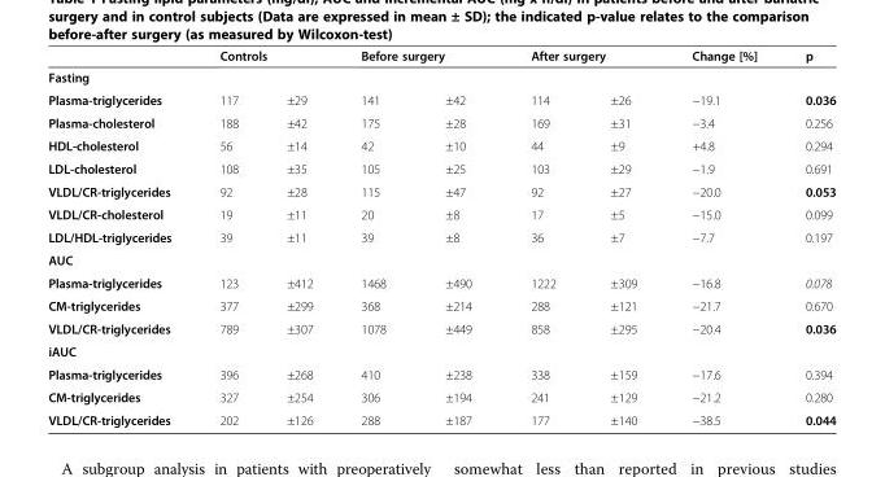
<table><thead><tr><td rowspan="2">Fasting</td><td colspan="2">Controls</td><td colspan="2">Before surgery</td><td colspan="2">After surgery</td><td rowspan="2">Change [%]</td><td rowspan="2">p</td></tr><tr><td></td><td></td><td></td><td></td><td></td><td></td></tr></thead><tbody><tr><td>Plasma-triglycerides</td><td>117</td><td>±29</td><td>141</td><td>±42</td><td>114</td><td>±26</td><td>−19.1</td><td>0.036</td></tr><tr><td>Plasma-cholesterol</td><td>188</td><td>±42</td><td>175</td><td>±28</td><td>169</td><td>±31</td><td>−3.4</td><td>0.256</td></tr><tr><td>HDL-cholesterol</td><td>56</td><td>±14</td><td>42</td><td>±10</td><td>44</td><td>±9</td><td>+4.8</td><td>0.294</td></tr><tr><td>LDL-cholesterol</td><td>108</td><td>±35</td><td>105</td><td>±25</td><td>103</td><td>±29</td><td>−1.9</td><td>0.691</td></tr><tr><td>VLDL/CR-triglycerides</td><td>92</td><td>±28</td><td>115</td><td>±47</td><td>92</td><td>±27</td><td>−20.0</td><td>0.053</td></tr><tr><td>VLDL/CR-cholesterol</td><td>19</td><td>±11</td><td>20</td><td>±8</td><td>17</td><td>±5</td><td>−15.0</td><td>0.099</td></tr><tr><td>LDL/HDL-triglycerides</td><td>39</td><td>±11</td><td>39</td><td>±8</td><td>36</td><td>±7</td><td>−7.7</td><td>0.197</td></tr><tr><td colspan="9">AUC</td></tr><tr><td>Plasma-triglycerides</td><td>123</td><td>±412</td><td>1468</td><td>±490</td><td>1222</td><td>±309</td><td>−16.8</td><td>0.078</td></tr><tr><td>CM-triglycerides</td><td>377</td><td>±299</td><td>368</td><td>±214</td><td>288</td><td>±121</td><td>−21.7</td><td>0.670</td></tr><tr><td>VLDL/CR-triglycerides</td><td>789</td><td>±307</td><td>1078</td><td>±449</td><td>858</td><td>±295</td><td>−20.4</td><td>0.036</td></tr><tr><td colspan="9">iAUC</td></tr><tr><td>Plasma-triglycerides</td><td>396</td><td>±268</td><td>410</td><td>±238</td><td>338</td><td>±159</td><td>−17.6</td><td>0.394</td></tr><tr><td>CM-triglycerides</td><td>327</td><td>±254</td><td>306</td><td>±194</td><td>241</td><td>±129</td><td>−21.2</td><td>0.280</td></tr><tr><td>VLDL/CR-triglycerides</td><td>202</td><td>±126</td><td>288</td><td>±187</td><td>177</td><td>±140</td><td>−38.5</td><td>0.044</td></tr></tbody></table>